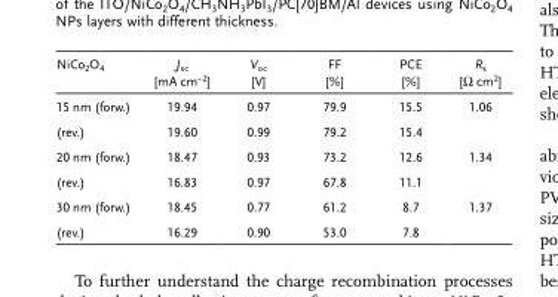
<table><thead><tr><td>NiCo<sub>2</sub>O<sub>4</sub></td><td>J<sub>sc</sub> [mA cm<sup>−2</sup>]</td><td>V<sub>oc</sub> [V]</td><td>FF [%]</td><td>PCE [%]</td><td>R<sub>s</sub> [Ω cm<sup>2</sup>]</td></tr></thead><tbody><tr><td>15 nm (forw.)</td><td>19.94</td><td>0.97</td><td>79.9</td><td>15.5</td><td>1.06</td></tr><tr><td>(rev.)</td><td>19.60</td><td>0.99</td><td>79.2</td><td>15.4</td><td></td></tr><tr><td>20 nm (forw.)</td><td>18.47</td><td>0.93</td><td>73.2</td><td>12.6</td><td>1.34</td></tr><tr><td>(rev.)</td><td>16.83</td><td>0.97</td><td>67.8</td><td>11.1</td><td></td></tr><tr><td>30 nm (forw.)</td><td>18.45</td><td>0.77</td><td>61.2</td><td>8.7</td><td>1.37</td></tr><tr><td>(rev.)</td><td>16.29</td><td>0.90</td><td>53.0</td><td>7.8</td><td></td></tr></tbody></table>